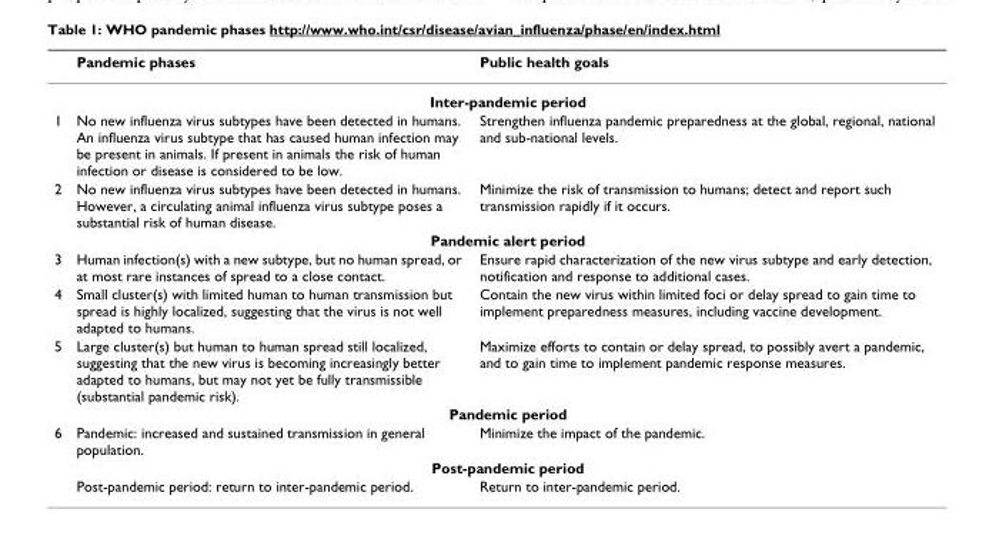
<table><thead><tr><td></td><td>Pandemic phases</td><td>Public health goals</td></tr></thead><tbody><tr><td></td><td colspan="2">Inter-pandemic period</td></tr><tr><td>1</td><td>No new influenza virus subtypes have been detected in humans. An influenza virus subtype that has caused human infection may be present in animals. If present in animals the risk of human infection or disease is considered to be low.</td><td>Strengthen influenza pandemic preparedness at the global, regional, national and sub-national levels.</td></tr><tr><td rowspan="2">2</td><td>No new influenza virus subtypes have been detected in humans. However, a circulating animal influenza virus subtype poses a substantial risk of human disease.</td><td>Minimize the risk of transmission to humans; detect and report such transmission rapidly if it occurs.</td></tr><tr><td colspan="2">Pandemic alert period</td></tr><tr><td>3</td><td>Human infection(s) with a new subtype, but no human spread, or at most rare instances of spread to a close contact.</td><td>Ensure rapid characterization of the new virus subtype and early detection, notification and response to additional cases.</td></tr><tr><td>4</td><td>Small cluster(s) with limited human to human transmission but spread is highly localized, suggesting that the virus is not well adapted to humans.</td><td>Contain the new virus within limited foci or delay spread to gain time to implement preparedness measures, including vaccine development.</td></tr><tr><td rowspan="2">5</td><td>Large cluster(s) but human to human spread still localized, suggesting that the new virus is becoming increasingly better adapted to humans, but may not yet be fully transmissible (substantial pandemic risk).</td><td>Maximize efforts to contain or delay spread, to possibly avert a pandemic, and to gain time to implement pandemic response measures.</td></tr><tr><td colspan="2">Pandemic period</td></tr><tr><td rowspan="3">6</td><td>Pandemic: increased and sustained transmission in general population.</td><td>Minimize the impact of the pandemic.</td></tr><tr><td colspan="2">Post-pandemic period</td></tr><tr><td>Post-pandemic period: return to inter-pandemic period.</td><td>Return to inter-pandemic period.</td></tr></tbody></table>